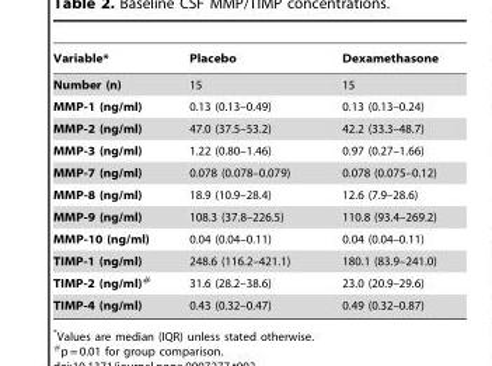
<table><thead><tr><td>Variable*</td><td>Placebo</td><td>Dexamethasone</td></tr></thead><tbody><tr><td>Number (n)</td><td>15</td><td>15</td></tr><tr><td>MMP-1 (ng/ml)</td><td>0.13 (0.13–0.49)</td><td>0.13 (0.13–0.24)</td></tr><tr><td>MMP-2 (ng/ml)</td><td>47.0 (37.5–53.2)</td><td>42.2 (33.3–48.7)</td></tr><tr><td>MMP-3 (ng/ml)</td><td>1.22 (0.80–1.46)</td><td>0.97 (0.27–1.66)</td></tr><tr><td>MMP-7 (ng/ml)</td><td>0.078 (0.078–0.079)</td><td>0.078 (0.075–0.12)</td></tr><tr><td>MMP-8 (ng/ml)</td><td>18.9 (10.9–28.4)</td><td>12.6 (7.9–28.6)</td></tr><tr><td>MMP-9 (ng/ml)</td><td>108.3 (37.8–226.5)</td><td>110.8 (93.4–269.2)</td></tr><tr><td>MMP-10 (ng/ml)</td><td>0.04 (0.04–0.11)</td><td>0.04 (0.04–0.11)</td></tr><tr><td>TIMP-1 (ng/ml)</td><td>248.6 (116.2–421.1)</td><td>180.1 (83.9–241.0)</td></tr><tr><td>TIMP-2 (ng/ml)#</td><td>31.6 (28.2–38.6)</td><td>23.0 (20.9–29.6)</td></tr><tr><td>TIMP-4 (ng/ml)</td><td>0.43 (0.32–0.47)</td><td>0.49 (0.32–0.87)</td></tr></tbody></table>